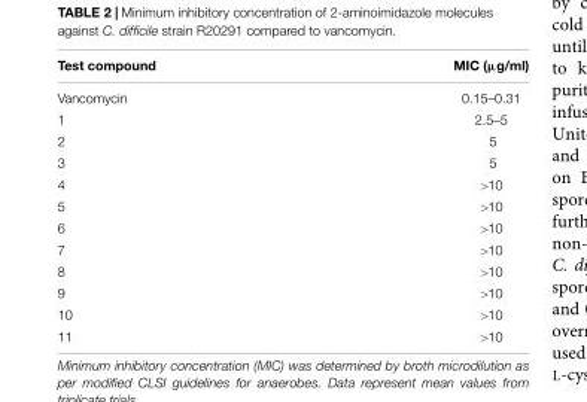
<table><thead><tr><td>Test compound</td><td>MIC (µg/ml)</td></tr></thead><tbody><tr><td>Vancomycin</td><td>0.15–0.31</td></tr><tr><td>1</td><td>2.5–5</td></tr><tr><td>2</td><td>5</td></tr><tr><td>3</td><td>5</td></tr><tr><td>4</td><td>&gt;10</td></tr><tr><td>5</td><td>&gt;10</td></tr><tr><td>6</td><td>&gt;10</td></tr><tr><td>7</td><td>&gt;10</td></tr><tr><td>8</td><td>&gt;10</td></tr><tr><td>9</td><td>&gt;10</td></tr><tr><td>10</td><td>&gt;10</td></tr><tr><td>11</td><td>&gt;10</td></tr></tbody></table>